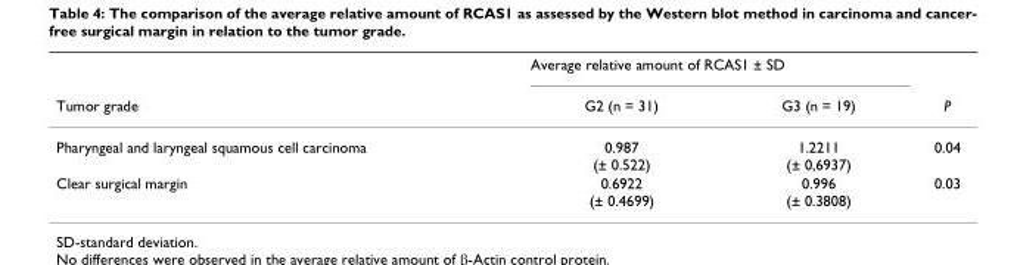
<table><thead><tr><td rowspan="2">Tumor grade</td><td colspan="2">Average relative amount of RCAS1 ± SD</td><td rowspan="2">P</td></tr><tr><td>G2 (n = 31)</td><td>G3 (n = 19)</td></tr></thead><tbody><tr><td>Pharyngeal and laryngeal squamous cell carcinoma</td><td>0.987 (± 0.522)</td><td>1.2211 (± 0,6937)</td><td>0.04</td></tr><tr><td>Clear surgical margin</td><td>0.6922 (± 0.4699)</td><td>0.996 (± 0.3808)</td><td>0.03</td></tr></tbody></table>